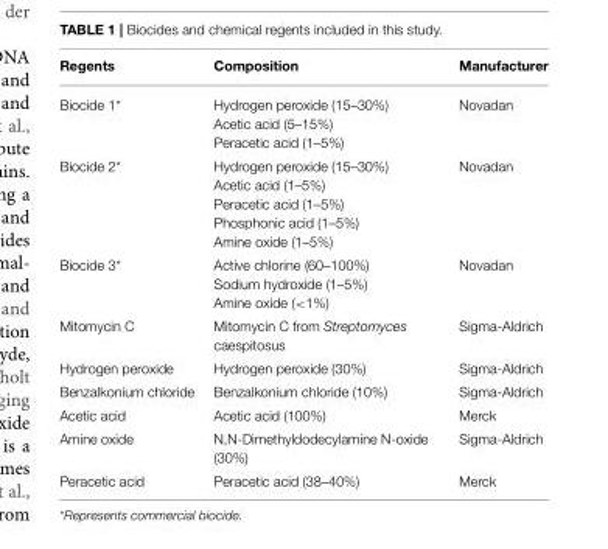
<table><thead><tr><td>Regents</td><td>Composition</td><td>Manufacturer</td></tr></thead><tbody><tr><td>Biocide 1*</td><td>Hydrogen peroxide (15–30%) Acetic acid (5–15%) Peracetic acid (1–5%)</td><td>Novadan</td></tr><tr><td>Biocide 2*</td><td>Hydrogen peroxide (15–30%) Acetic acid (1–5%) Peracetic acid (1–5%) Phosphonic acid (1–5%) Amine oxide (1–5%)</td><td>Novadan</td></tr><tr><td>Biocide 3*</td><td>Active chlorine (60–100%) Sodium hydroxide (1–5%) Amine oxide (&lt;1%)</td><td>Novadan</td></tr><tr><td>Mitomycin C</td><td>Mitomycin C from Streptomyces caespitosus</td><td>Sigma-Aldrich</td></tr><tr><td>Hydrogen peroxide</td><td>Hydrogen peroxide (30%)</td><td>Sigma-Aldrich</td></tr><tr><td>Benzalkonium chloride</td><td>Benzalkonium chloride (10%)</td><td>Sigma-Aldrich</td></tr><tr><td>Acetic acid</td><td>Acetic acid (100%)</td><td>Merck</td></tr><tr><td>Amine oxide</td><td>N,N-Dimethyldodecylamine N-oxide (30%)</td><td>Sigma-Aldrich</td></tr><tr><td>Peracetic acid</td><td>Peracetic acid (38–40%)</td><td>Merck</td></tr></tbody></table>